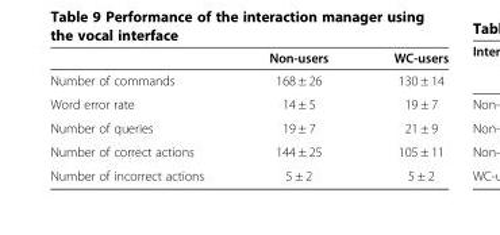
<table><thead><tr><td></td><td>Non-users</td><td>WC-users</td></tr></thead><tbody><tr><td>Number of commands</td><td>168 ± 26</td><td>130 ± 14</td></tr><tr><td>Word error rate</td><td>14 ± 5</td><td>19 ± 7</td></tr><tr><td>Number of queries</td><td>19 ± 7</td><td>21 ± 9</td></tr><tr><td>Number of correct actions</td><td>144 ± 25</td><td>105 ± 11</td></tr><tr><td>Number of incorrect actions</td><td>5 ± 2</td><td>5 ± 2</td></tr></tbody></table>